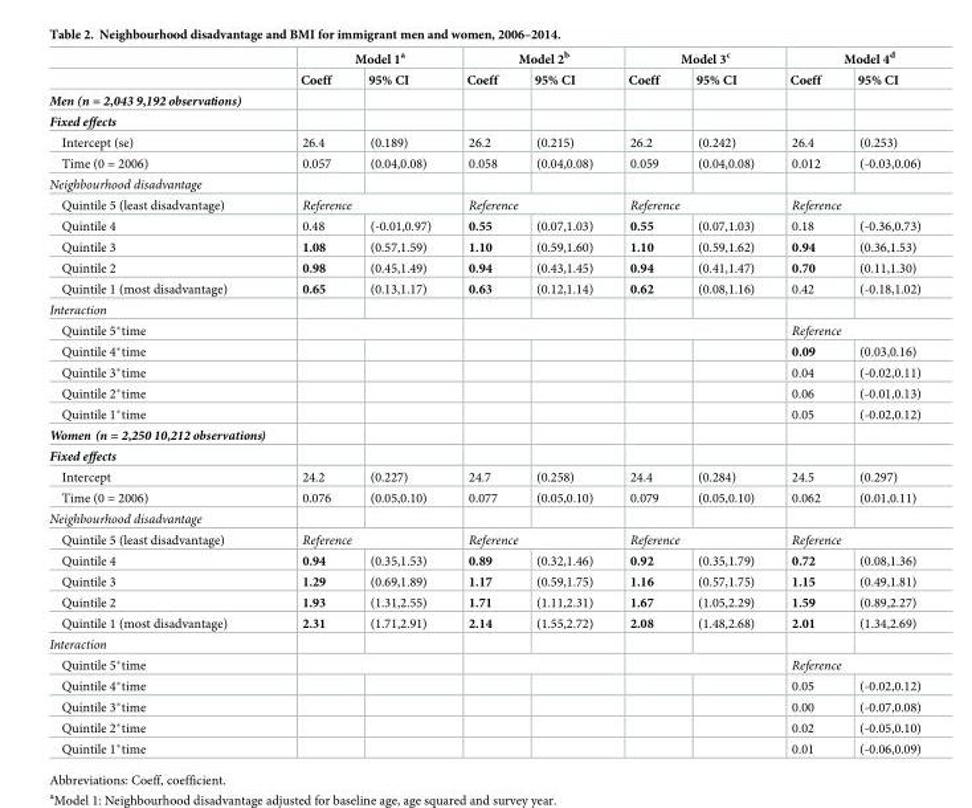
<table><thead><tr><td rowspan="2"></td><td colspan="2">Model 1<sup>a</sup></td><td colspan="2">Model 2<sup>b</sup></td><td colspan="2">Model 3<sup>c</sup></td><td colspan="2">Model 4<sup>d</sup></td></tr><tr><td>Coeff</td><td>95% CI</td><td>Coeff</td><td>95% CI</td><td>Coeff</td><td>95% CI</td><td>Coeff</td><td>95% CI</td></tr></thead><tbody><tr><td colspan="9">Men (n = 2,043 9,192 observations)</td></tr><tr><td colspan="9">Fixed effects</td></tr><tr><td>Intercept (se)</td><td>26.4</td><td>(0.189)</td><td>26.2</td><td>(0.215)</td><td>26.2</td><td>(0.242)</td><td>26.4</td><td>(0.253)</td></tr><tr><td>Time (0 = 2006)</td><td>0.057</td><td>(0.04,0.08)</td><td>0.058</td><td>(0.04,0.08)</td><td>0.059</td><td>(0.04,0.08)</td><td>0.012</td><td>(-0.03,0.06)</td></tr><tr><td colspan="9">Neighbourhood disadvantage</td></tr><tr><td>Quintile 5 (least disadvantage)</td><td colspan="2">Reference</td><td colspan="2">Reference</td><td colspan="2">Reference</td><td colspan="2">Reference</td></tr><tr><td>Quintile 4</td><td>0.48</td><td>(-0.01,0.97)</td><td>0.55</td><td>(0.07,1.03)</td><td>0.55</td><td>(0.07,1.03)</td><td>0.18</td><td>(-0.36,0.73)</td></tr><tr><td>Quintile 3</td><td>1.08</td><td>(0.57,1.59)</td><td>1.10</td><td>(0.59,1.60)</td><td>1.10</td><td>(0.59,1.62)</td><td>0.94</td><td>(0.36,1.53)</td></tr><tr><td>Quintile 2</td><td>0.98</td><td>(0.45,1.49)</td><td>0.94</td><td>(0.43,1.45)</td><td>0.94</td><td>(0.41,1.47)</td><td>0.70</td><td>(0.11,1.30)</td></tr><tr><td>Quintile 1 (most disadvantage)</td><td>0.65</td><td>(0.13,1.17)</td><td>0.63</td><td>(0.12,1.14)</td><td>0.62</td><td>(0.08,1.16)</td><td>0.42</td><td>(-0.18,1.02)</td></tr><tr><td colspan="9">Interaction</td></tr><tr><td>Quintile 5*time</td><td colspan="2"></td><td colspan="2"></td><td colspan="2"></td><td colspan="2">Reference</td></tr><tr><td>Quintile 4*time</td><td></td><td></td><td></td><td></td><td></td><td></td><td>0.09</td><td>(0.03,0.16)</td></tr><tr><td>Quintile 3*time</td><td></td><td></td><td></td><td></td><td></td><td></td><td>0.04</td><td>(-0.02,0.11)</td></tr><tr><td>Quintile 2*time</td><td></td><td></td><td></td><td></td><td></td><td></td><td>0.06</td><td>(-0.01,0.13)</td></tr><tr><td>Quintile 1*time</td><td></td><td></td><td></td><td></td><td></td><td></td><td>0.05</td><td>(-0.02,0.12)</td></tr><tr><td colspan="9">Women (n = 2,250 10,212 observations)</td></tr><tr><td colspan="9">Fixed effects</td></tr><tr><td>Intercept</td><td>24.2</td><td>(0.227)</td><td>24.7</td><td>(0.258)</td><td>24.4</td><td>(0.284)</td><td>24.5</td><td>(0.297)</td></tr><tr><td>Time (0 = 2006)</td><td>0.076</td><td>(0.05,0.10)</td><td>0.077</td><td>(0.05,0.10)</td><td>0.079</td><td>(0.05,0.10)</td><td>0.062</td><td>(0.01,0.11)</td></tr><tr><td colspan="9">Neighbourhood disadvantage</td></tr><tr><td>Quintile 5 (least disadvantage)</td><td colspan="2">Reference</td><td colspan="2">Reference</td><td colspan="2">Reference</td><td colspan="2">Reference</td></tr><tr><td>Quintile 4</td><td>0.94</td><td>(0.35,1.53)</td><td>0.89</td><td>(0.32,1.46)</td><td>0.92</td><td>(0.35,1.79)</td><td>0.72</td><td>(0.08,1.36)</td></tr><tr><td>Quintile 3</td><td>1.29</td><td>(0.69,1.89)</td><td>1.17</td><td>(0.59,1.75)</td><td>1.16</td><td>(0.57,1.75)</td><td>1.15</td><td>(0.49,1.81)</td></tr><tr><td>Quintile 2</td><td>1.93</td><td>(1.31,2.55)</td><td>1.71</td><td>(1.11,2.31)</td><td>1.67</td><td>(1.05,2.29)</td><td>1.59</td><td>(0.89,2.27)</td></tr><tr><td>Quintile 1 (most disadvantage)</td><td>2.31</td><td>(1.71,2.91)</td><td>2.14</td><td>(1.55,2.72)</td><td>2.08</td><td>(1.48,2.68)</td><td>2.01</td><td>(1.34,2.69)</td></tr><tr><td colspan="9">Interaction</td></tr><tr><td>Quintile 5*time</td><td colspan="2"></td><td colspan="2"></td><td colspan="2"></td><td colspan="2">Reference</td></tr><tr><td>Quintile 4*time</td><td></td><td></td><td></td><td></td><td></td><td></td><td>0.05</td><td>(-0.02,0.12)</td></tr><tr><td>Quintile 3*time</td><td></td><td></td><td></td><td></td><td></td><td></td><td>0.00</td><td>(-0.07,0.08)</td></tr><tr><td>Quintile 2*time</td><td></td><td></td><td></td><td></td><td></td><td></td><td>0.02</td><td>(-0.05,0.10)</td></tr><tr><td>Quintile 1*time</td><td></td><td></td><td></td><td></td><td></td><td></td><td>0.01</td><td>(-0.06,0.09)</td></tr></tbody></table>